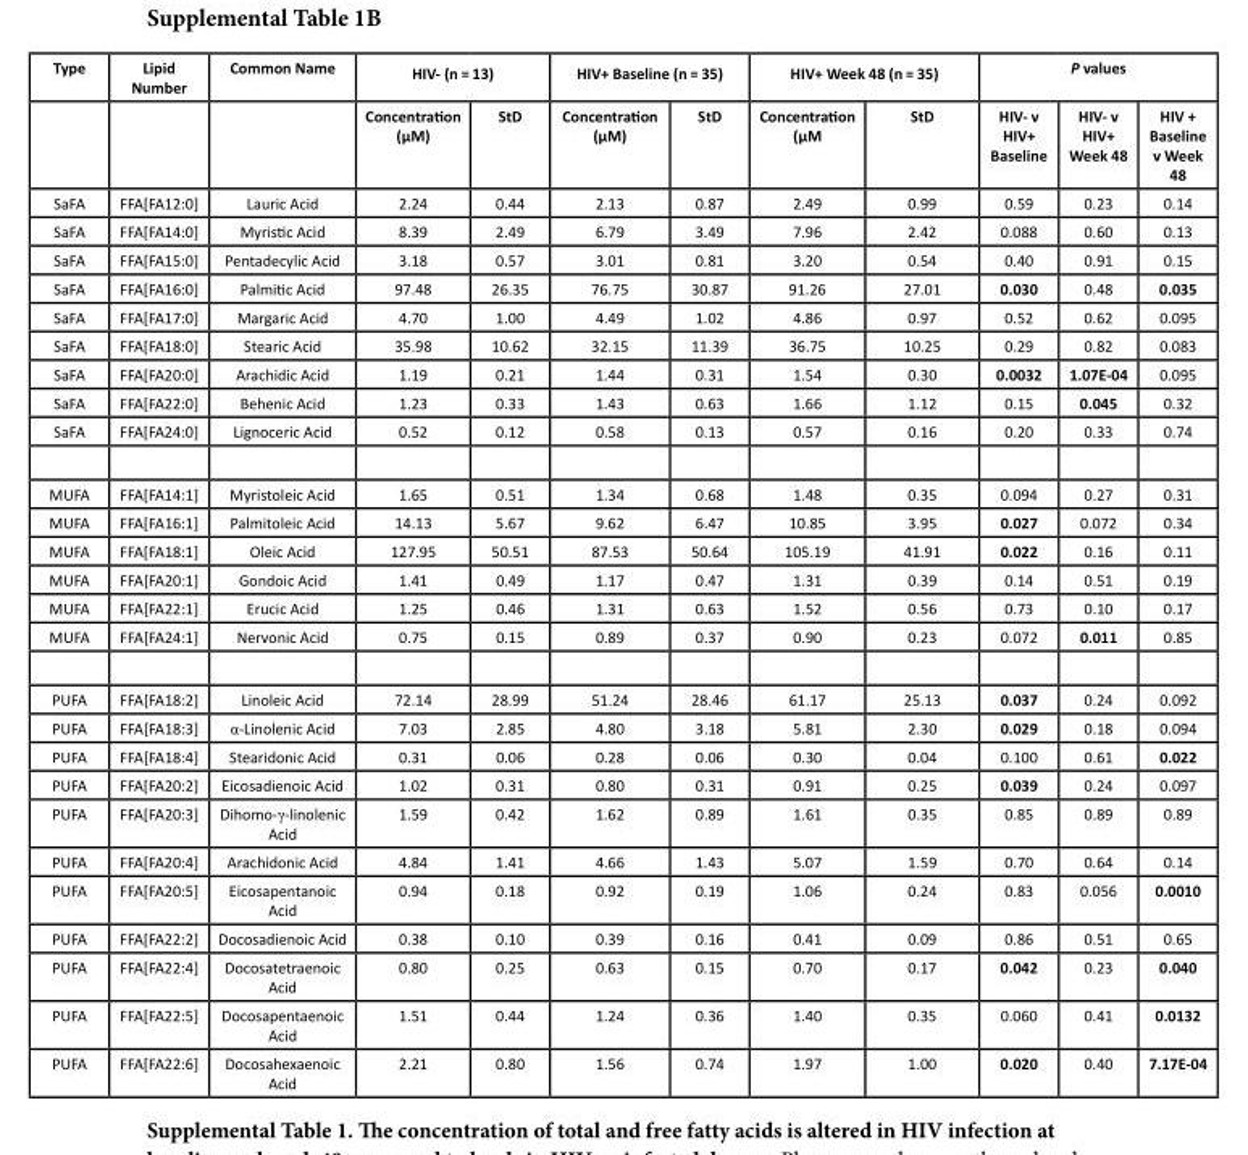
<table><thead><tr><td rowspan="2">Type</td><td rowspan="2">Lipid Number</td><td rowspan="2">Common Name</td><td colspan="2">HIV- (n = 13)</td><td colspan="2">HIV+ Baseline (n = 35)</td><td colspan="2">HIV+ Week 48 (n = 35)</td><td colspan="3">P values</td></tr><tr><td>Concentration (μM)</td><td>StD</td><td>Concentration (μM)</td><td>StD</td><td>Concentration (μM</td><td>StD</td><td>HIV- v HIV+ Baseline</td><td>HIV- v HIV+ Week 48</td><td>HIV + Baseline v Week 48</td></tr></thead><tbody><tr><td>SaFA</td><td>FFA[FA12:0]</td><td>Lauric Acid</td><td>2.24</td><td>0.44</td><td>2.13</td><td>0.87</td><td>2.49</td><td>0.99</td><td>0.59</td><td>0.23</td><td>0.14</td></tr><tr><td>SaFA</td><td>FFA[FA14:0]</td><td>Myristic Acid</td><td>8.39</td><td>2.49</td><td>6.79</td><td>3.49</td><td>7.96</td><td>2.42</td><td>0.088</td><td>0.60</td><td>0.13</td></tr><tr><td>SaFA</td><td>FFA[FA15:0]</td><td>Pentadecylic Acid</td><td>3.18</td><td>0.57</td><td>3.01</td><td>0.81</td><td>3.20</td><td>0.54</td><td>0.40</td><td>0.91</td><td>0.15</td></tr><tr><td>SaFA</td><td>FFA[FA16:0]</td><td>Palmitic Acid</td><td>97.48</td><td>26.35</td><td>76.75</td><td>30.87</td><td>91.26</td><td>27.01</td><td>0.030</td><td>0.48</td><td>0.035</td></tr><tr><td>SaFA</td><td>FFA[FA17:0]</td><td>Margaric Acid</td><td>4.70</td><td>1.00</td><td>4.49</td><td>1.02</td><td>4.86</td><td>0.97</td><td>0.52</td><td>0.62</td><td>0.095</td></tr><tr><td>SaFA</td><td>FFA[FA18:0]</td><td>Stearic Acid</td><td>35.98</td><td>10.62</td><td>32.15</td><td>11.39</td><td>36.75</td><td>10.25</td><td>0.29</td><td>0.82</td><td>0.083</td></tr><tr><td>SaFA</td><td>FFA[FA20:0]</td><td>Arachidic Acid</td><td>1.19</td><td>0.21</td><td>1.44</td><td>0.31</td><td>1.54</td><td>0.30</td><td>0.0032</td><td>1.07E-04</td><td>0.095</td></tr><tr><td>SaFA</td><td>FFA[FA22:0]</td><td>Behenic Acid</td><td>1.23</td><td>0.33</td><td>1.43</td><td>0.63</td><td>1.66</td><td>1.12</td><td>0.15</td><td>0.045</td><td>0.32</td></tr><tr><td>SaFA</td><td>FFA[FA24:0]</td><td>Lignoceric Acid</td><td>0.52</td><td>0.12</td><td>0.58</td><td>0.13</td><td>0.57</td><td>0.16</td><td>0.20</td><td>0.33</td><td>0.74</td></tr><tr><td>MUFA</td><td>FFA[FA14:1]</td><td>Myristoleic Acid</td><td>1.65</td><td>0.51</td><td>1.34</td><td>0.68</td><td>1.48</td><td>0.35</td><td>0.094</td><td>0.27</td><td>0.31</td></tr><tr><td>MUFA</td><td>FFA[FA16:1]</td><td>Palmitoleic Acid</td><td>14.13</td><td>5.67</td><td>9.62</td><td>6.47</td><td>10.85</td><td>3.95</td><td>0.027</td><td>0.072</td><td>0.34</td></tr><tr><td>MUFA</td><td>FFA[FA18:1]</td><td>Oleic Acid</td><td>127.95</td><td>50.51</td><td>87.53</td><td>50.64</td><td>105.19</td><td>41.91</td><td>0.022</td><td>0.16</td><td>0.11</td></tr><tr><td>MUFA</td><td>FFA[FA20:1]</td><td>Gondoic Acid</td><td>1.41</td><td>0.49</td><td>1.17</td><td>0.47</td><td>1.31</td><td>0.39</td><td>0.14</td><td>0.51</td><td>0.19</td></tr><tr><td>MUFA</td><td>FFA[FA22:1]</td><td>Erucic Acid</td><td>1.25</td><td>0.46</td><td>1.31</td><td>0.63</td><td>1.52</td><td>0.56</td><td>0.73</td><td>0.10</td><td>0.17</td></tr><tr><td>MUFA</td><td>FFA[FA24:1]</td><td>Nervonic Acid</td><td>0.75</td><td>0.15</td><td>0.89</td><td>0.37</td><td>0.90</td><td>0.23</td><td>0.072</td><td>0.011</td><td>0.85</td></tr><tr><td>PUFA</td><td>FFA[FA18:2]</td><td>Linoleic Acid</td><td>72.14</td><td>28.99</td><td>51.24</td><td>28.46</td><td>61.17</td><td>25.13</td><td>0.037</td><td>0.24</td><td>0.092</td></tr><tr><td>PUFA</td><td>FFA[FA18:3]</td><td>α-Linolenic Acid</td><td>7.03</td><td>2.85</td><td>4.80</td><td>3.18</td><td>5.81</td><td>2.30</td><td>0.029</td><td>0.18</td><td>0.094</td></tr><tr><td>PUFA</td><td>FFA[FA18:4]</td><td>Stearidonic Acid</td><td>0.31</td><td>0.06</td><td>0.28</td><td>0.06</td><td>0.30</td><td>0.04</td><td>0.100</td><td>0.61</td><td>0.022</td></tr><tr><td>PUFA</td><td>FFA[FA20:2]</td><td>Eicosadienoic Acid</td><td>1.02</td><td>0.31</td><td>0.80</td><td>0.31</td><td>0.91</td><td>0.25</td><td>0.039</td><td>0.24</td><td>0.097</td></tr><tr><td>PUFA</td><td>FFA[FA20:3]</td><td>Dihomo-γ-linolenic Acid</td><td>1.59</td><td>0.42</td><td>1.62</td><td>0.89</td><td>1.61</td><td>0.35</td><td>0.85</td><td>0.89</td><td>0.89</td></tr><tr><td>PUFA</td><td>FFA[FA20:4]</td><td>Arachidonic Acid</td><td>4.84</td><td>1.41</td><td>4.66</td><td>1.43</td><td>5.07</td><td>1.59</td><td>0.70</td><td>0.64</td><td>0.14</td></tr><tr><td>PUFA</td><td>FFA[FA20:5]</td><td>Eicosapentanoic Acid</td><td>0.94</td><td>0.18</td><td>0.92</td><td>0.19</td><td>1.06</td><td>0.24</td><td>0.83</td><td>0.056</td><td>0.0010</td></tr><tr><td>PUFA</td><td>FFA[FA22:2]</td><td>Docosadienoic Acid</td><td>0.38</td><td>0.10</td><td>0.39</td><td>0.16</td><td>0.41</td><td>0.09</td><td>0.86</td><td>0.51</td><td>0.65</td></tr><tr><td>PUFA</td><td>FFA[FA22:4]</td><td>Docosatetraenoic Acid</td><td>0.80</td><td>0.25</td><td>0.63</td><td>0.15</td><td>0.70</td><td>0.17</td><td>0.042</td><td>0.23</td><td>0.040</td></tr><tr><td>PUFA</td><td>FFA[FA22:5]</td><td>Docosapentaenoic Acid</td><td>1.51</td><td>0.44</td><td>1.24</td><td>0.36</td><td>1.40</td><td>0.35</td><td>0.060</td><td>0.41</td><td>0.0132</td></tr><tr><td>PUFA</td><td>FFA[FA22:6]</td><td>Docosahexaenoic Acid</td><td>2.21</td><td>0.80</td><td>1.56</td><td>0.74</td><td>1.97</td><td>1.00</td><td>0.020</td><td>0.40</td><td>7.17E-04</td></tr></tbody></table>